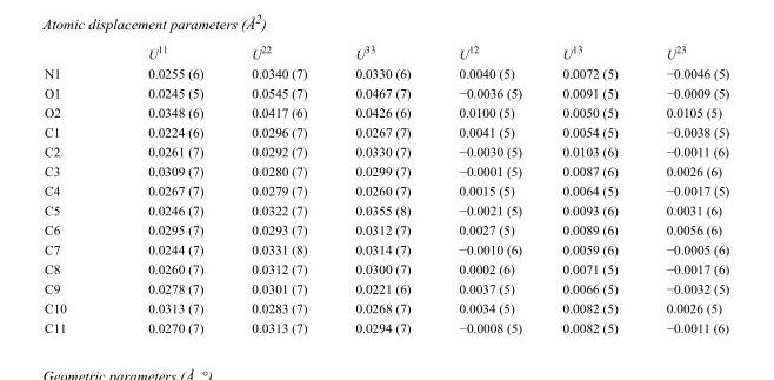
<table><thead><tr><td></td><td>U<sup>11</sup></td><td>U<sup>22</sup></td><td>U<sup>33</sup></td><td>U<sup>12</sup></td><td>U<sup>13</sup></td><td>U<sup>23</sup></td></tr></thead><tbody><tr><td>N1</td><td>0.0255 (6)</td><td>0.0340 (7)</td><td>0.0330 (6)</td><td>0.0040 (5)</td><td>0.0072 (5)</td><td>−0.0046 (5)</td></tr><tr><td>O1</td><td>0.0245 (5)</td><td>0.0545 (7)</td><td>0.0467 (7)</td><td>−0.0036 (5)</td><td>0.0091 (5)</td><td>−0.0009 (5)</td></tr><tr><td>O2</td><td>0.0348 (6)</td><td>0.0417 (6)</td><td>0.0426 (6)</td><td>0.0100 (5)</td><td>0.0050 (5)</td><td>0.0105 (5)</td></tr><tr><td>C1</td><td>0.0224 (6)</td><td>0.0296 (7)</td><td>0.0267 (7)</td><td>0.0041 (5)</td><td>0.0054 (5)</td><td>−0.0038 (5)</td></tr><tr><td>C2</td><td>0.0261 (7)</td><td>0.0292 (7)</td><td>0.0330 (7)</td><td>−0.0030 (5)</td><td>0.0103 (6)</td><td>−0.0011 (6)</td></tr><tr><td>C3</td><td>0.0309 (7)</td><td>0.0280 (7)</td><td>0.0299 (7)</td><td>−0.0001 (5)</td><td>0.0087 (6)</td><td>0.0026 (6)</td></tr><tr><td>C4</td><td>0.0267 (7)</td><td>0.0279 (7)</td><td>0.0260 (7)</td><td>0.0015 (5)</td><td>0.0064 (5)</td><td>−0.0017 (5)</td></tr><tr><td>C5</td><td>0.0246 (7)</td><td>0.0322 (7)</td><td>0.0355 (8)</td><td>−0.0021 (5)</td><td>0.0093 (6)</td><td>0.0031 (6)</td></tr><tr><td>C6</td><td>0.0295 (7)</td><td>0.0293 (7)</td><td>0.0312 (7)</td><td>0.0027 (5)</td><td>0.0089 (6)</td><td>0.0056 (6)</td></tr><tr><td>C7</td><td>0.0244 (7)</td><td>0.0331 (8)</td><td>0.0314 (7)</td><td>−0.0010 (6)</td><td>0.0059 (6)</td><td>−0.0005 (6)</td></tr><tr><td>C8</td><td>0.0260 (7)</td><td>0.0312 (7)</td><td>0.0300 (7)</td><td>0.0002 (6)</td><td>0.0071 (5)</td><td>−0.0017 (6)</td></tr><tr><td>C9</td><td>0.0278 (7)</td><td>0.0301 (7)</td><td>0.0221 (6)</td><td>0.0037 (5)</td><td>0.0066 (5)</td><td>−0.0032 (5)</td></tr><tr><td>C10</td><td>0.0313 (7)</td><td>0.0283 (7)</td><td>0.0268 (7)</td><td>0.0034 (5)</td><td>0.0082 (5)</td><td>0.0026 (5)</td></tr><tr><td>C11</td><td>0.0270 (7)</td><td>0.0313 (7)</td><td>0.0294 (7)</td><td>−0.0008 (5)</td><td>0.0082 (5)</td><td>−0.0011 (6)</td></tr></tbody></table>